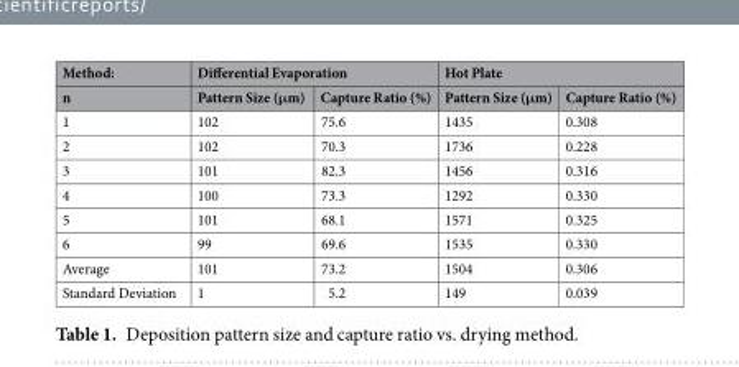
<table><thead><tr><td rowspan="2">Method: n</td><td colspan="2">Differential Evaporation</td><td colspan="2">Hot Plate</td></tr><tr><td>Pattern Size (μm)</td><td>Capture Ratio (%)</td><td>Pattern Size (μm)</td><td>Capture Ratio (%)</td></tr></thead><tbody><tr><td>1</td><td>102</td><td>75.6</td><td>1435</td><td>0.308</td></tr><tr><td>2</td><td>102</td><td>70.3</td><td>1736</td><td>0.228</td></tr><tr><td>3</td><td>101</td><td>82.3</td><td>1456</td><td>0.316</td></tr><tr><td>4</td><td>100</td><td>73.3</td><td>1292</td><td>0.330</td></tr><tr><td>5</td><td>101</td><td>68.1</td><td>1571</td><td>0.325</td></tr><tr><td>6</td><td>99</td><td>69.6</td><td>1535</td><td>0.330</td></tr><tr><td>Average</td><td>101</td><td>73.2</td><td>1504</td><td>0.306</td></tr><tr><td>Standard Deviation</td><td>1</td><td>5.2</td><td>149</td><td>0.039</td></tr></tbody></table>